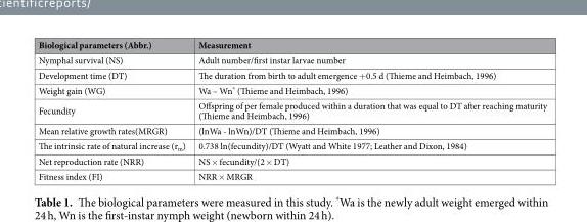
<table><thead><tr><td>Biological parameters (Abbr.)</td><td>Measurement</td></tr></thead><tbody><tr><td>Nymphal survival (NS)</td><td>Adult number/first instar larvae number</td></tr><tr><td>Development time (DT)</td><td>The duration from birth to adult emergence +0.5 d (Thieme and Heimbach, 1996)</td></tr><tr><td>Weight gain (WG)</td><td>Wa – Wn* (Thieme and Heimbach, 1996)</td></tr><tr><td>Fecundity</td><td>Offspring of per female produced within a duration that was equal to DT after reaching maturity (Thieme and Heimbach, 1996)</td></tr><tr><td>Mean relative growth rates(MRGR)</td><td>(lnWa - lnWn)/DT (Thieme and Heimbach, 1996)</td></tr><tr><td>The intrinsic rate of natural increase (r<sub>m</sub>)</td><td>0.738 ln(fecundity)/DT (Wyatt and White 1977; Leather and Dixon, 1984)</td></tr><tr><td>Net reproduction rate (NRR)</td><td>NS × fecundity/(2 × DT)</td></tr><tr><td>Fitness index (FI)</td><td>NRR × MRGR</td></tr></tbody></table>